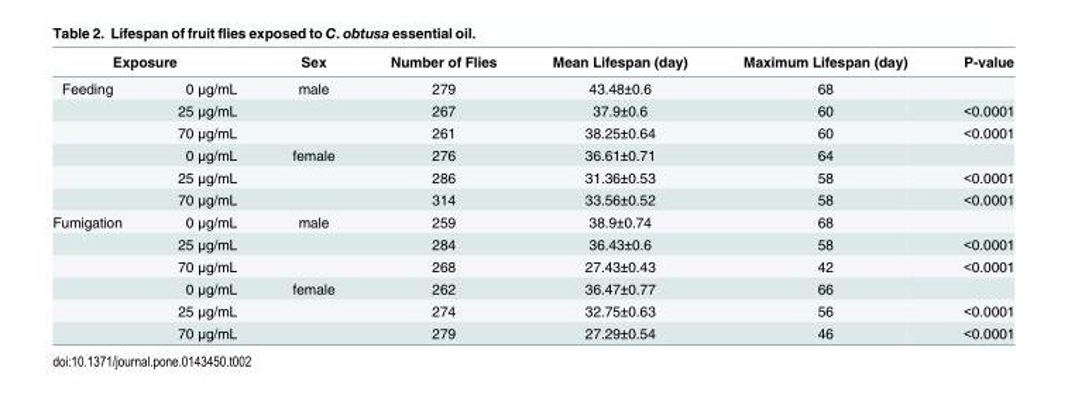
<table><thead><tr><td colspan="2">Exposure</td><td rowspan="2">Sex male</td><td rowspan="2">Number of Flies 279</td><td rowspan="2">Mean Lifespan (day) 43.48±0.6</td><td rowspan="2">Maximum Lifespan (day) 68</td><td rowspan="2">P-value</td></tr><tr><td>Feeding</td><td>0 μg/mL</td></tr></thead><tbody><tr><td></td><td>25 μg/mL</td><td></td><td>267</td><td>37.9±0.6</td><td>60</td><td>&lt;0.0001</td></tr><tr><td></td><td>70 μg/mL</td><td></td><td>261</td><td>38.25±0.64</td><td>60</td><td>&lt;0.0001</td></tr><tr><td></td><td>0 μg/mL</td><td>female</td><td>276</td><td>36.61±0.71</td><td>64</td><td></td></tr><tr><td></td><td>25 μg/mL</td><td></td><td>286</td><td>31.36±0.53</td><td>58</td><td>&lt;0.0001</td></tr><tr><td></td><td>70 μg/mL</td><td></td><td>314</td><td>33.56±0.52</td><td>58</td><td>&lt;0.0001</td></tr><tr><td rowspan="6">Fumigation</td><td>0 μg/mL</td><td>male</td><td>259</td><td>38.9±0.74</td><td>68</td><td></td></tr><tr><td>25 μg/mL</td><td></td><td>284</td><td>36.43±0.6</td><td>58</td><td>&lt;0.0001</td></tr><tr><td>70 μg/mL</td><td></td><td>268</td><td>27.43±0.43</td><td>42</td><td>&lt;0.0001</td></tr><tr><td>0 μg/mL</td><td>female</td><td>262</td><td>36.47±0.77</td><td>66</td><td></td></tr><tr><td>25 μg/mL</td><td></td><td>274</td><td>32.75±0.63</td><td>56</td><td>&lt;0.0001</td></tr><tr><td>70 μg/mL</td><td></td><td>279</td><td>27.29±0.54</td><td>46</td><td>&lt;0.0001</td></tr></tbody></table>